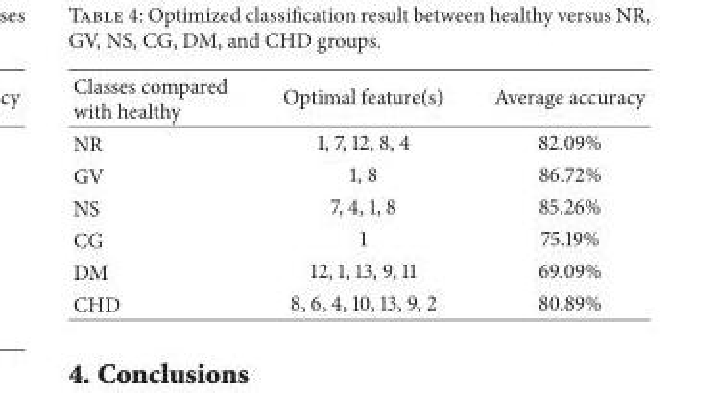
<table><thead><tr><td>Classes compared with healthy</td><td>Optimal feature(s)</td><td>Average accuracy</td></tr></thead><tbody><tr><td>NR</td><td>1, 7, 12, 8, 4</td><td>82.09%</td></tr><tr><td>GV</td><td>1, 8</td><td>86.72%</td></tr><tr><td>NS</td><td>7, 4, 1, 8</td><td>85.26%</td></tr><tr><td>CG</td><td>1</td><td>75.19%</td></tr><tr><td>DM</td><td>12, 1, 13, 9, 11</td><td>69.09%</td></tr><tr><td>CHD</td><td>8, 6, 4, 10, 13, 9, 2</td><td>80.89%</td></tr></tbody></table>